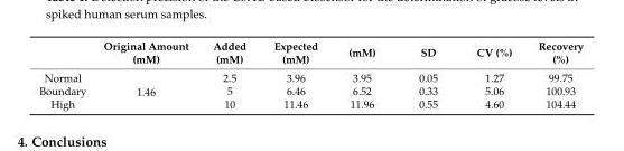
<table><thead><tr><td></td><td>Original Amount (mM)</td><td>Added (mM)</td><td>Expected (mM)</td><td>(mM)</td><td>SD</td><td>CV (%)</td><td>Recovery (%)</td></tr></thead><tbody><tr><td>Normal</td><td rowspan="3">1.46</td><td>2.5</td><td>3.96</td><td>3.95</td><td>0.05</td><td>1.27</td><td>99.75</td></tr><tr><td>Boundary</td><td>5</td><td>6.46</td><td>6.52</td><td>0.33</td><td>5.06</td><td>100.93</td></tr><tr><td>High</td><td>10</td><td>11.46</td><td>11.96</td><td>0.55</td><td>4.60</td><td>104.44</td></tr></tbody></table>